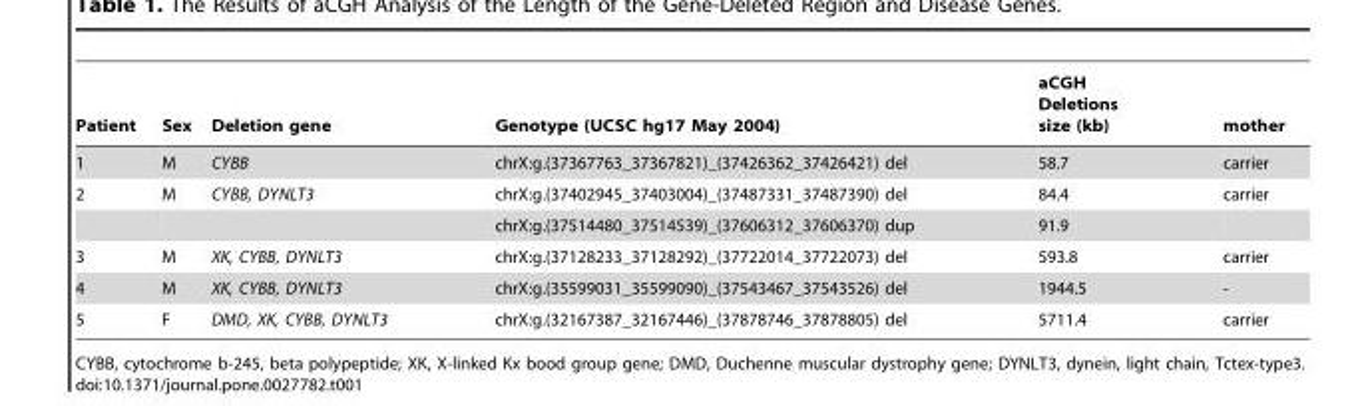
<table><thead><tr><td>Patient</td><td>Sex</td><td>Deletion gene</td><td>Genotype (UCSC hg17 May 2004)</td><td>aCGH Deletions size (kb)</td><td>mother</td></tr></thead><tbody><tr><td>1</td><td>M</td><td>CYBB</td><td>chrX:g.(37367763_37367821)_(37426362_37426421) del</td><td>58.7</td><td>carrier</td></tr><tr><td rowspan="2">2</td><td>M</td><td>CYBB, DYNLT3</td><td>chrX:g.(37402945_37403004)_(37487331_37487390) del</td><td>84.4</td><td>carrier</td></tr><tr><td></td><td></td><td>chrX:g.(37514480_37514539)_(37606312_37606370) dup</td><td>91.9</td><td></td></tr><tr><td>3</td><td>M</td><td>XK, CYBB, DYNLT3</td><td>chrX:g.(37128233_37128292)_(37722014_37722073) del</td><td>593.8</td><td>carrier</td></tr><tr><td>4</td><td>M</td><td>XK, CYBB, DYNLT3</td><td>chrX:g.(35599031_35599090)_(37543467_37543526) del</td><td>1944.5</td><td>-</td></tr><tr><td>5</td><td>F</td><td>DMD, XK, CYBB, DYNLT3</td><td>chrX:g.(32167387_32167446)_(37878746_37878805) del</td><td>5711.4</td><td>carrier</td></tr></tbody></table>